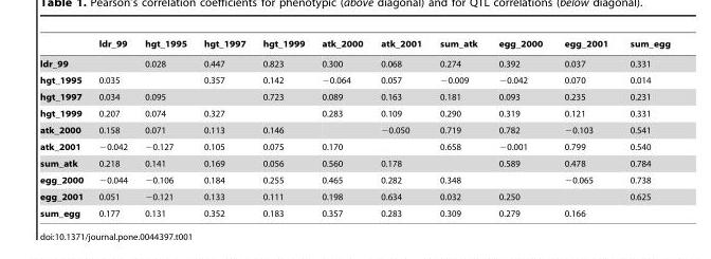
<table><thead><tr><td></td><td>ldr_99</td><td>hgt_1995</td><td>hgt_1997</td><td>hgt_1999</td><td>atk_2000</td><td>atk_2001</td><td>sum_atk</td><td>egg_2000</td><td>egg_2001</td><td>sum_egg</td></tr></thead><tbody><tr><td>ldr_99</td><td></td><td>0.028</td><td>0.447</td><td>0.823</td><td>0.300</td><td>0.068</td><td>0.274</td><td>0.392</td><td>0.037</td><td>0.331</td></tr><tr><td>hgt_1995</td><td>0.035</td><td></td><td>0.357</td><td>0.142</td><td>−0.064</td><td>0.057</td><td>−0.009</td><td>−0.042</td><td>0.070</td><td>0.014</td></tr><tr><td>hgt_1997</td><td>0.034</td><td>0.095</td><td></td><td>0.723</td><td>0.089</td><td>0.163</td><td>0.181</td><td>0.093</td><td>0.235</td><td>0.231</td></tr><tr><td>hgt_1999</td><td>0.207</td><td>0.074</td><td>0.327</td><td></td><td>0.283</td><td>0.109</td><td>0.290</td><td>0.319</td><td>0.121</td><td>0.331</td></tr><tr><td>atk_2000</td><td>0.158</td><td>0.071</td><td>0.113</td><td>0.146</td><td></td><td>−0.050</td><td>0.719</td><td>0.782</td><td>−0.103</td><td>0.541</td></tr><tr><td>atk_2001</td><td>−0.042</td><td>−0.127</td><td>0.105</td><td>0.075</td><td>0.170</td><td></td><td>0.658</td><td>−0.001</td><td>0.799</td><td>0.540</td></tr><tr><td>sum_atk</td><td>0.218</td><td>0.141</td><td>0.169</td><td>0.056</td><td>0.560</td><td>0.178</td><td></td><td>0.589</td><td>0.478</td><td>0.784</td></tr><tr><td>egg_2000</td><td>−0.044</td><td>−0.106</td><td>0.184</td><td>0.255</td><td>0.465</td><td>0.282</td><td>0.348</td><td></td><td>−0.065</td><td>0.738</td></tr><tr><td>egg_2001</td><td>0.051</td><td>−0.121</td><td>0.133</td><td>0.111</td><td>0.198</td><td>0.634</td><td>0.032</td><td>0.250</td><td></td><td>0.625</td></tr><tr><td>sum_egg</td><td>0.177</td><td>0.131</td><td>0.352</td><td>0.183</td><td>0.357</td><td>0.283</td><td>0.309</td><td>0.279</td><td>0.166</td><td></td></tr></tbody></table>